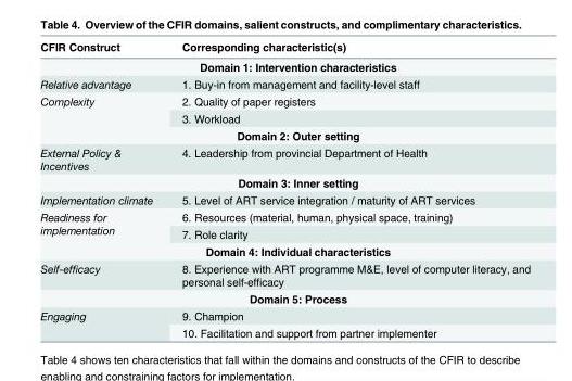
<table><thead><tr><td>CFIR Construct</td><td>Corresponding characteristic(s)</td></tr></thead><tbody><tr><td colspan="2">Domain 1: Intervention characteristics</td></tr><tr><td>Relative advantage</td><td>1. Buy-in from management and facility-level staff</td></tr><tr><td rowspan="2">Complexity</td><td>2. Quality of paper registers</td></tr><tr><td>3. Workload</td></tr><tr><td colspan="2">Domain 2: Outer setting</td></tr><tr><td>External Policy &amp; Incentives</td><td>4. Leadership from provincial Department of Health</td></tr><tr><td colspan="2">Domain 3: Inner setting</td></tr><tr><td>Implementation climate</td><td>5. Level of ART service integration / maturity of ART services</td></tr><tr><td rowspan="2">Readiness for implementation</td><td>6. Resources (material, human, physical space, training)</td></tr><tr><td>7. Role clarity</td></tr><tr><td colspan="2">Domain 4: Individual characteristics</td></tr><tr><td>Self-efficacy</td><td>8. Experience with ART programme M&amp;E, level of computer literacy, and personal self-efficacy</td></tr><tr><td colspan="2">Domain 5: Process</td></tr><tr><td rowspan="2">Engaging</td><td>9. Champion</td></tr><tr><td>10. Facilitation and support from partner implementer</td></tr></tbody></table>